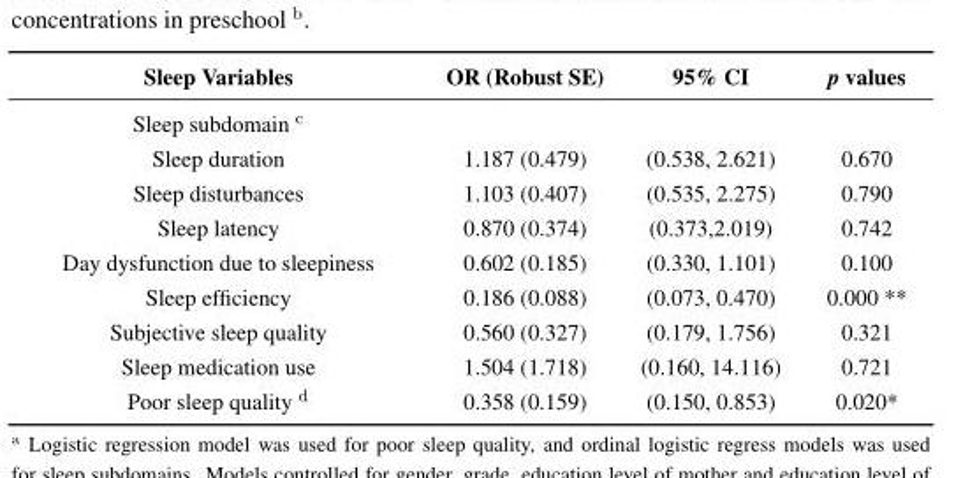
<table><thead><tr><td>Sleep Variables</td><td>OR (Robust SE)</td><td>95% CI</td><td>p values</td></tr></thead><tbody><tr><td colspan="4">Sleep subdomain <sup>c</sup></td></tr><tr><td>Sleep duration</td><td>1.187 (0.479)</td><td>(0.538, 2.621)</td><td>0.670</td></tr><tr><td>Sleep disturbances</td><td>1.103 (0.407)</td><td>(0.535, 2.275)</td><td>0.790</td></tr><tr><td>Sleep latency</td><td>0.870 (0.374)</td><td>(0.373,2.019)</td><td>0.742</td></tr><tr><td>Day dysfunction due to sleepiness</td><td>0.602 (0.185)</td><td>(0.330, 1.101)</td><td>0.100</td></tr><tr><td>Sleep efficiency</td><td>0.186 (0.088)</td><td>(0.073, 0.470)</td><td>0.000 **</td></tr><tr><td>Subjective sleep quality</td><td>0.560 (0.327)</td><td>(0.179, 1.756)</td><td>0.321</td></tr><tr><td>Sleep medication use</td><td>1.504 (1.718)</td><td>(0.160, 14.116)</td><td>0.721</td></tr><tr><td>Poor sleep quality <sup>d</sup></td><td>0.358 (0.159)</td><td>(0.150, 0.853)</td><td>0.020*</td></tr></tbody></table>